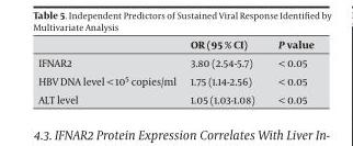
<table><thead><tr><td></td><td>OR (95 % CI)</td><td>P value</td></tr></thead><tbody><tr><td>IFNAR2</td><td>3.80 (2.54-5.7)</td><td>&lt; 0.05</td></tr><tr><td>HBV DNA level &lt; 10<sup>5</sup> copies/ml</td><td>1.75 (1.14-2.56)</td><td>&lt; 0.05</td></tr><tr><td>ALT level</td><td>1.05 (1.03-1.08)</td><td>&lt; 0.05</td></tr></tbody></table>